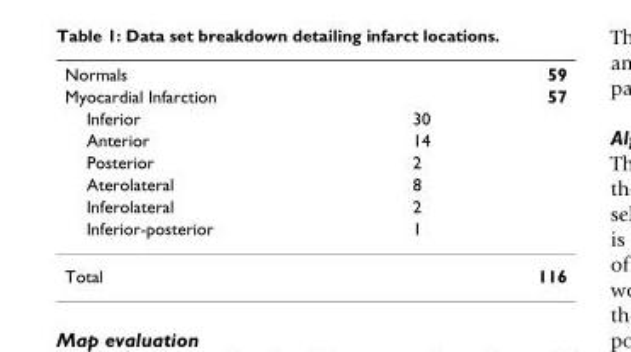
<table><thead><tr><td rowspan="8">Normals Myocardial Infarction Inferior Anterior Posterior Aterolateral Inferolateral Inferior-posterior</td><td rowspan="8">30 14 2 8 2 1</td><td rowspan="8">59 57</td></tr><tr></tr><tr></tr><tr></tr><tr></tr><tr></tr><tr></tr><tr></tr></thead><tbody><tr><td>Total</td><td></td><td>116</td></tr></tbody></table>